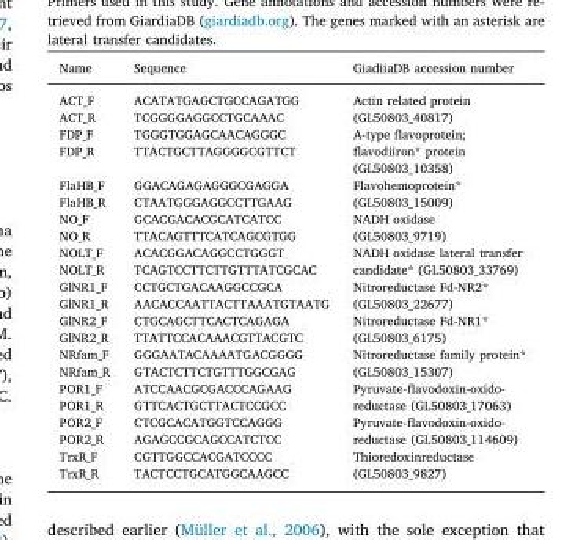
<table><thead><tr><td>Name</td><td>Sequence</td><td>GiadiiaDB accession number</td></tr></thead><tbody><tr><td>ACT_F</td><td>ACATATGAGCTGCCAGATGG</td><td rowspan="2">Actin related protein (GL50803_40817)</td></tr><tr><td>ACT_R</td><td>TCGGGGAGGCCTGCAAAC</td></tr><tr><td>FDP_F</td><td>TGGGTGGAGCAACAGGGC</td><td rowspan="2">A-type flavoprotein; flavodiiron* protein (GL50803_10358)</td></tr><tr><td>FDP_R</td><td>TTACTGCTTAGGGGCGTTCT</td></tr><tr><td>FlaHB_F</td><td>GGACAGAGAGGGCGAGGA</td><td rowspan="2">Flavohemoprotein* (GL50803_15009)</td></tr><tr><td>FlaHB_R</td><td>CTAATGGGAGGCCTTGAAG</td></tr><tr><td>NO_F</td><td>GCACGACACGCATCATCC</td><td>NADH oxidase</td></tr><tr><td>NO_R</td><td>TTACAGTTTCATCAGCGTGG</td><td>(GL50803_9719)</td></tr><tr><td>NOLT_F</td><td>ACACGGACAGGCCTGGGT</td><td>NADH oxidase lateral transfer</td></tr><tr><td>NOLT_R</td><td>TCAGTCCTTCTTGTTTATCGCAC</td><td>candidate* (GL50803_33769)</td></tr><tr><td>GlNR1_F</td><td>CCTGCTGACAAGGCCGCA</td><td rowspan="2">Nitroreductase Fd-NR2* (GL50803_22677)</td></tr><tr><td>GlNR1_R</td><td>AACACCAATTACTTAAATGTAATG</td></tr><tr><td>GlNR2_F</td><td>CTGCAGCTTCACTCAGAGA</td><td rowspan="2">Nitroreductase Fd-NR1* (GL50803_6175)</td></tr><tr><td>GlNR2_R</td><td>TTATTCCACAAACGTTACGTC</td></tr><tr><td>NRfam_F</td><td>GGGAATACAAAATGACGGGG</td><td rowspan="2">Nitroreductase family protein* (GL50803_15307)</td></tr><tr><td>NRfam_R</td><td>GTACTCTTCTGTTTGGCGAG</td></tr><tr><td>POR1_F</td><td>ATCCAACGCGACCCAGAAG</td><td rowspan="2">Pyruvate-flavodoxin-oxido- reductase (GL50803_17063)</td></tr><tr><td>POR1_R</td><td>GTTCACTGCTTACTCCGCC</td></tr><tr><td>POR2_F</td><td>CTCGCACATGGTCCAGGG</td><td rowspan="2">Pyruvate-flavodoxin-oxido- reductase (GL50803_114609)</td></tr><tr><td>POR2_R</td><td>AGAGCCGCAGCCATCTCC</td></tr><tr><td>TrxR_F</td><td>CGTTGGCCACGATCCCC</td><td rowspan="2">Thioredoxinreductase (GL50803_9827)</td></tr><tr><td>TrxR_R</td><td>TACTCCTGCATGGCAAGCC</td></tr></tbody></table>